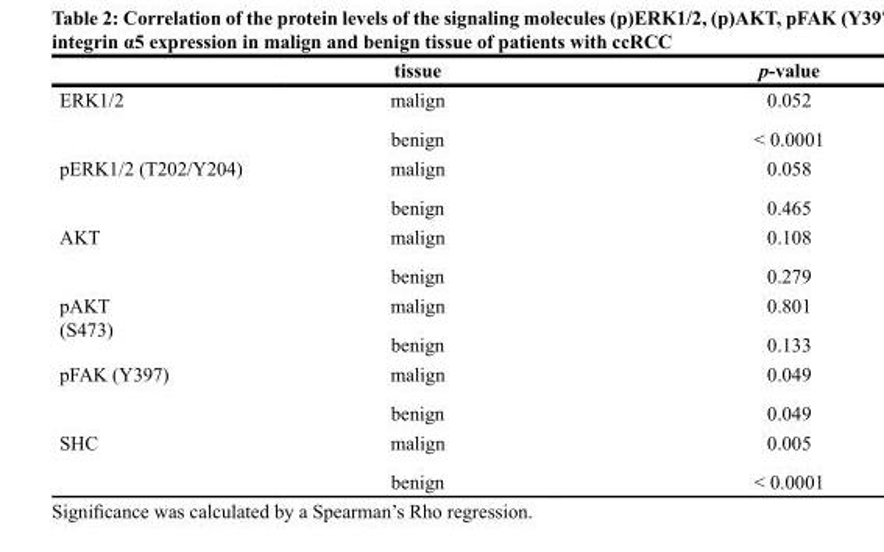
<table><thead><tr><td></td><td>tissue</td><td>p-value</td></tr></thead><tbody><tr><td rowspan="2">ERK1/2</td><td>malign</td><td>0.052</td></tr><tr><td>benign</td><td>&lt; 0.0001</td></tr><tr><td rowspan="2">pERK1/2 (T202/Y204)</td><td>malign</td><td>0.058</td></tr><tr><td>benign</td><td>0.465</td></tr><tr><td rowspan="2">AKT</td><td>malign</td><td>0.108</td></tr><tr><td>benign</td><td>0.279</td></tr><tr><td rowspan="2">pAKT (S473)</td><td>malign</td><td>0.801</td></tr><tr><td>benign</td><td>0.133</td></tr><tr><td rowspan="2">pFAK (Y397)</td><td>malign</td><td>0.049</td></tr><tr><td>benign</td><td>0.049</td></tr><tr><td rowspan="2">SHC</td><td>malign</td><td>0.005</td></tr><tr><td>benign</td><td>&lt; 0.0001</td></tr></tbody></table>